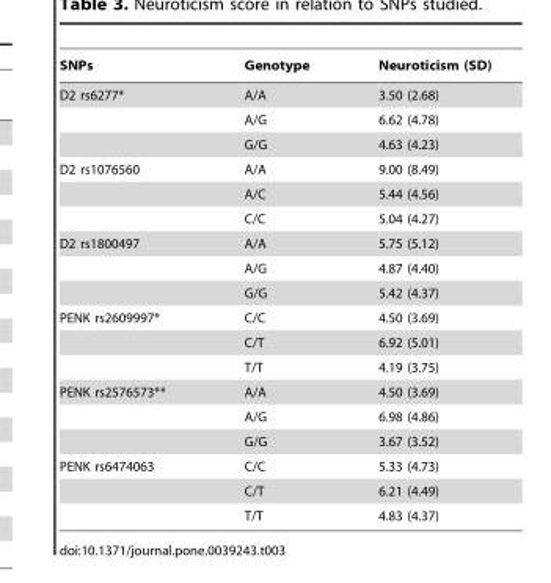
<table><thead><tr><td>SNPs</td><td>Genotype</td><td>Neuroticism (SD)</td></tr></thead><tbody><tr><td rowspan="3">D2 rs6277*</td><td>A/A</td><td>3.50 (2.68)</td></tr><tr><td>A/G</td><td>6.62 (4.78)</td></tr><tr><td>G/G</td><td>4.63 (4.23)</td></tr><tr><td rowspan="3">D2 rs1076560</td><td>A/A</td><td>9.00 (8.49)</td></tr><tr><td>A/C</td><td>5.44 (4.56)</td></tr><tr><td>C/C</td><td>5.04 (4.27)</td></tr><tr><td rowspan="3">D2 rs1800497</td><td>A/A</td><td>5.75 (5.12)</td></tr><tr><td>A/G</td><td>4.87 (4.40)</td></tr><tr><td>G/G</td><td>5.42 (4.37)</td></tr><tr><td rowspan="3">PENK rs2609997*</td><td>C/C</td><td>4.50 (3.69)</td></tr><tr><td>C/T</td><td>6.92 (5.01)</td></tr><tr><td>T/T</td><td>4.19 (3.75)</td></tr><tr><td rowspan="3">PENK rs2576573**</td><td>A/A</td><td>4.50 (3.69)</td></tr><tr><td>A/G</td><td>6.98 (4.86)</td></tr><tr><td>G/G</td><td>3.67 (3.52)</td></tr><tr><td rowspan="3">PENK rs6474063</td><td>C/C</td><td>5.33 (4.73)</td></tr><tr><td>C/T</td><td>6.21 (4.49)</td></tr><tr><td>T/T</td><td>4.83 (4.37)</td></tr></tbody></table>